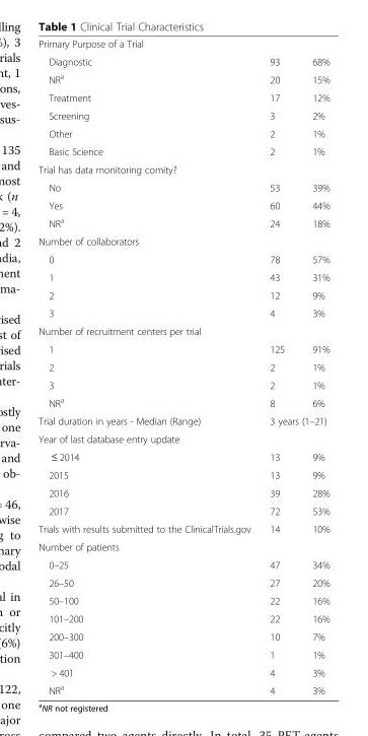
<table><tbody><tr><td colspan="3">Primary Purpose of a Trial</td></tr><tr><td>Diagnostic</td><td>93</td><td>68%</td></tr><tr><td>NR<sup>a</sup></td><td>20</td><td>15%</td></tr><tr><td>Treatment</td><td>17</td><td>12%</td></tr><tr><td>Screening</td><td>3</td><td>2%</td></tr><tr><td>Other</td><td>2</td><td>1%</td></tr><tr><td>Basic Science</td><td>2</td><td>1%</td></tr><tr><td colspan="3">Trial has data monitoring comity?</td></tr><tr><td>No</td><td>53</td><td>39%</td></tr><tr><td>Yes</td><td>60</td><td>44%</td></tr><tr><td>NR<sup>a</sup></td><td>24</td><td>18%</td></tr><tr><td colspan="3">Number of collaborators</td></tr><tr><td>0</td><td>78</td><td>57%</td></tr><tr><td>1</td><td>43</td><td>31%</td></tr><tr><td>2</td><td>12</td><td>9%</td></tr><tr><td>3</td><td>4</td><td>3%</td></tr><tr><td colspan="3">Number of recruitment centers per trial</td></tr><tr><td>1</td><td>125</td><td>91%</td></tr><tr><td>2</td><td>2</td><td>1%</td></tr><tr><td>3</td><td>2</td><td>1%</td></tr><tr><td>NR<sup>a</sup></td><td>8</td><td>6%</td></tr><tr><td>Trial duration in years - Median (Range)</td><td colspan="2">3 years (1–21)</td></tr><tr><td colspan="3">Year of last database entry update</td></tr><tr><td>≤ 2014</td><td>13</td><td>9%</td></tr><tr><td>2015</td><td>13</td><td>9%</td></tr><tr><td>2016</td><td>39</td><td>28%</td></tr><tr><td>2017</td><td>72</td><td>53%</td></tr><tr><td>Trials with results submitted to the ClinicalTrials.gov</td><td>14</td><td>10%</td></tr><tr><td colspan="3">Number of patients</td></tr><tr><td>0–25</td><td>47</td><td>34%</td></tr><tr><td>26–50</td><td>27</td><td>20%</td></tr><tr><td>50–100</td><td>22</td><td>16%</td></tr><tr><td>101–200</td><td>22</td><td>16%</td></tr><tr><td>200–300</td><td>10</td><td>7%</td></tr><tr><td>301–400</td><td>1</td><td>1%</td></tr><tr><td>&gt; 401</td><td>4</td><td>3%</td></tr><tr><td>NR<sup>a</sup></td><td>4</td><td>3%</td></tr></tbody></table>